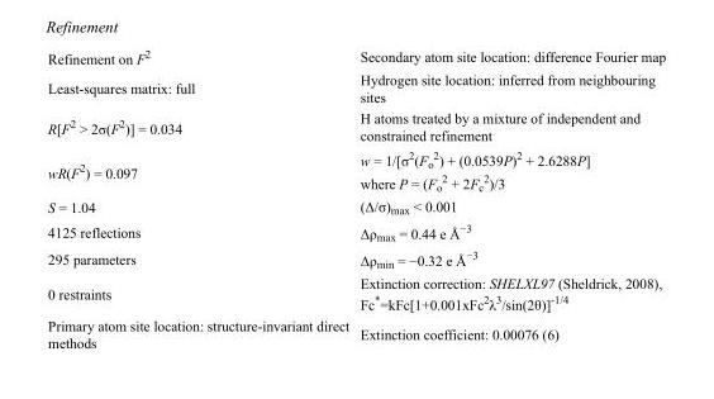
<table><tbody><tr><td>Refinement on F<sup>2</sup></td><td>Secondary atom site location: difference Fourier map</td></tr><tr><td>Least-squares matrix: full</td><td>Hydrogen site location: inferred from neighbouring sites</td></tr><tr><td>R[F<sup>2</sup> &gt; 2σ(F<sup>2</sup>)] = 0.034</td><td>H atoms treated by a mixture of independent and constrained refinement</td></tr><tr><td>wR(F<sup>2</sup>) = 0.097</td><td>w = 1/[σ<sup>2</sup>(F<sub>o</sub> <sup>2</sup>) + (0.0539P)<sup>2</sup> + 2.6288P] where P = (F<sub>o</sub> <sup>2</sup> + 2F<sub>c</sub> <sup>2</sup>)/3</td></tr><tr><td>S = 1.04</td><td>(Δ/σ)<sub>max</sub> &lt; 0.001</td></tr><tr><td>4125 reflections</td><td>Δρ<sub>max</sub> = 0.44 e Å<sup>−3</sup></td></tr><tr><td>295 parameters</td><td>Δρ<sub>min</sub> = −0.32 e Å<sup>−3</sup></td></tr><tr><td>0 restraints</td><td>Extinction correction: SHELXL97 (Sheldrick, 2008), Fc*=kFc[1+0.001xFc<sup>2</sup>λ<sup>3</sup>/sin(2θ)]<sup>-1/4</sup></td></tr><tr><td>Primary atom site location: structure-invariant direct methods</td><td>Extinction coefficient: 0.00076 (6)</td></tr></tbody></table>